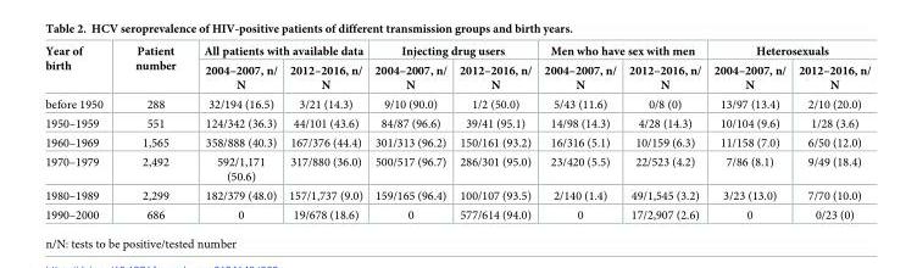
<table><thead><tr><td rowspan="2">Year of birth</td><td rowspan="2">Patient number</td><td colspan="2">All patients with available data</td><td colspan="2">Injecting drug users</td><td colspan="2">Men who have sex with men</td><td colspan="2">Heterosexuals</td></tr><tr><td>2004–2007, n/ N</td><td>2012–2016, n/ N</td><td>2004–2007, n/ N</td><td>2012–2016, n/ N</td><td>2004–2007, n/ N</td><td>2012–2016, n/ N</td><td>2004–2007, n/ N</td><td>2012–2016, n/ N</td></tr></thead><tbody><tr><td>before 1950</td><td>288</td><td>32/194 (16.5)</td><td>3/21 (14.3)</td><td>9/10 (90.0)</td><td>1/2 (50.0)</td><td>5/43 (11.6)</td><td>0/8 (0)</td><td>13/97 (13.4)</td><td>2/10 (20.0)</td></tr><tr><td>1950–1959</td><td>551</td><td>124/342 (36.3)</td><td>44/101 (43.6)</td><td>84/87 (96.6)</td><td>39/41 (95.1)</td><td>14/98 (14.3)</td><td>4/28 (14.3)</td><td>10/104 (9.6)</td><td>1/28 (3.6)</td></tr><tr><td>1960–1969</td><td>1,565</td><td>358/888 (40.3)</td><td>167/376 (44.4)</td><td>301/313 (96.2)</td><td>150/161 (93.2)</td><td>16/316 (5.1)</td><td>10/159 (6.3)</td><td>11/158 (7.0)</td><td>6/50 (12.0)</td></tr><tr><td>1970–1979</td><td>2,492</td><td>592/1,171 (50.6)</td><td>317/880 (36.0)</td><td>500/517 (96.7)</td><td>286/301 (95.0)</td><td>23/420 (5.5)</td><td>22/523 (4.2)</td><td>7/86 (8.1)</td><td>9/49 (18.4)</td></tr><tr><td>1980–1989</td><td>2,299</td><td>182/379 (48.0)</td><td>157/1,737 (9.0)</td><td>159/165 (96.4)</td><td>100/107 (93.5)</td><td>2/140 (1.4)</td><td>49/1,545 (3.2)</td><td>3/23 (13.0)</td><td>7/70 (10.0)</td></tr><tr><td>1990–2000</td><td>686</td><td>0</td><td>19/678 (18.6)</td><td>0</td><td>577/614 (94.0)</td><td>0</td><td>17/2,907 (2.6)</td><td>0</td><td>0/23 (0)</td></tr></tbody></table>